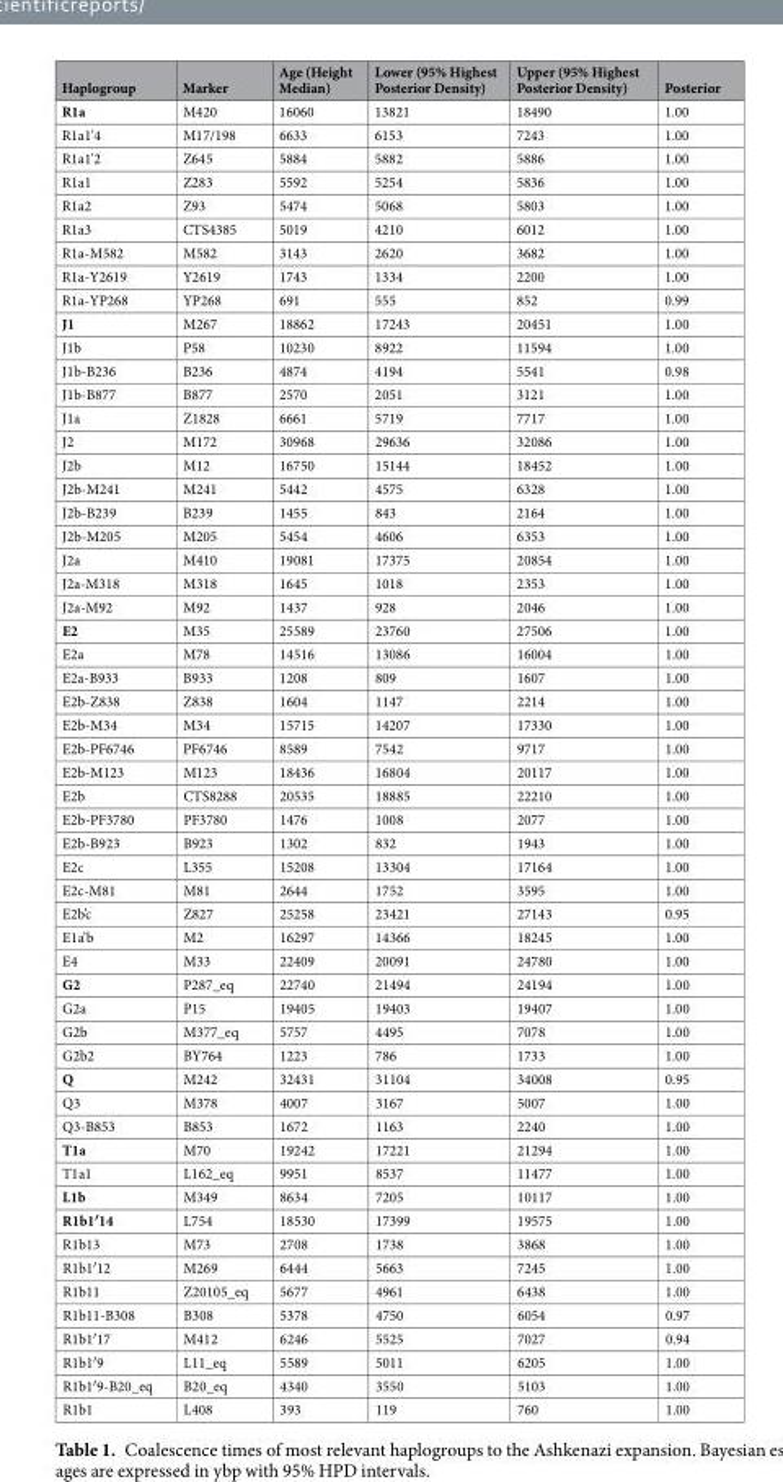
<table><thead><tr><td>Haplogroup</td><td>Marker</td><td>Age (Height Median)</td><td>Lower (95% Highest Posterior Density)</td><td>Upper (95% Highest Posterior Density)</td><td>Posterior</td></tr></thead><tbody><tr><td>R1a</td><td>M420</td><td>16060</td><td>13821</td><td>18490</td><td>1.00</td></tr><tr><td>R1a1&#x27;4</td><td>M17/198</td><td>6633</td><td>6153</td><td>7243</td><td>1.00</td></tr><tr><td>R1a1&#x27;2</td><td>Z645</td><td>5884</td><td>5882</td><td>5886</td><td>1.00</td></tr><tr><td>R1a1</td><td>Z283</td><td>5592</td><td>5254</td><td>5836</td><td>1.00</td></tr><tr><td>R1a2</td><td>Z93</td><td>5474</td><td>5068</td><td>5803</td><td>1.00</td></tr><tr><td>R1a3</td><td>CTS4385</td><td>5019</td><td>4210</td><td>6012</td><td>1.00</td></tr><tr><td>R1a-M582</td><td>M582</td><td>3143</td><td>2620</td><td>3682</td><td>1.00</td></tr><tr><td>R1a-Y2619</td><td>Y2619</td><td>1743</td><td>1334</td><td>2200</td><td>1.00</td></tr><tr><td>R1a-YP268</td><td>YP268</td><td>691</td><td>555</td><td>852</td><td>0.99</td></tr><tr><td>J1</td><td>M267</td><td>18862</td><td>17243</td><td>20451</td><td>1.00</td></tr><tr><td>J1b</td><td>P58</td><td>10230</td><td>8922</td><td>11594</td><td>1.00</td></tr><tr><td>J1b-B236</td><td>B236</td><td>4874</td><td>4194</td><td>5541</td><td>0.98</td></tr><tr><td>J1b-B877</td><td>B877</td><td>2570</td><td>2051</td><td>3121</td><td>1.00</td></tr><tr><td>J1a</td><td>Z1828</td><td>6661</td><td>5719</td><td>7717</td><td>1.00</td></tr><tr><td>J2</td><td>M172</td><td>30968</td><td>29636</td><td>32086</td><td>1.00</td></tr><tr><td>J2b</td><td>M12</td><td>16750</td><td>15144</td><td>18452</td><td>1.00</td></tr><tr><td>J2b-M241</td><td>M241</td><td>5442</td><td>4575</td><td>6328</td><td>1.00</td></tr><tr><td>J2b-B239</td><td>B239</td><td>1455</td><td>843</td><td>2164</td><td>1.00</td></tr><tr><td>J2b-M205</td><td>M205</td><td>5454</td><td>4606</td><td>6353</td><td>1.00</td></tr><tr><td>J2a</td><td>M410</td><td>19081</td><td>17375</td><td>20854</td><td>1.00</td></tr><tr><td>J2a-M318</td><td>M318</td><td>1645</td><td>1018</td><td>2353</td><td>1.00</td></tr><tr><td>J2a-M92</td><td>M92</td><td>1437</td><td>928</td><td>2046</td><td>1.00</td></tr><tr><td>E2</td><td>M35</td><td>25589</td><td>23760</td><td>27506</td><td>1.00</td></tr><tr><td>E2a</td><td>M78</td><td>14516</td><td>13086</td><td>16004</td><td>1.00</td></tr><tr><td>E2a-B933</td><td>B933</td><td>1208</td><td>809</td><td>1607</td><td>1.00</td></tr><tr><td>E2b-Z838</td><td>Z838</td><td>1604</td><td>1147</td><td>2214</td><td>1.00</td></tr><tr><td>E2b-M34</td><td>M34</td><td>15715</td><td>14207</td><td>17330</td><td>1.00</td></tr><tr><td>E2b-PF6746</td><td>PF6746</td><td>8589</td><td>7542</td><td>9717</td><td>1.00</td></tr><tr><td>E2b-M123</td><td>M123</td><td>18436</td><td>16804</td><td>20117</td><td>1.00</td></tr><tr><td>E2b</td><td>CTS8288</td><td>20535</td><td>18885</td><td>22210</td><td>1.00</td></tr><tr><td>E2b-PF3780</td><td>PF3780</td><td>1476</td><td>1008</td><td>2077</td><td>1.00</td></tr><tr><td>E2b-B923</td><td>B923</td><td>1302</td><td>832</td><td>1943</td><td>1.00</td></tr><tr><td>E2c</td><td>L355</td><td>15208</td><td>13304</td><td>17164</td><td>1.00</td></tr><tr><td>E2c-M81</td><td>M81</td><td>2644</td><td>1752</td><td>3595</td><td>1.00</td></tr><tr><td>E2b’c</td><td>Z827</td><td>25258</td><td>23421</td><td>27143</td><td>0.95</td></tr><tr><td>E1a’b</td><td>M2</td><td>16297</td><td>14366</td><td>18245</td><td>1.00</td></tr><tr><td>E4</td><td>M33</td><td>22409</td><td>20091</td><td>24780</td><td>1.00</td></tr><tr><td>G2</td><td>P287_eq</td><td>22740</td><td>21494</td><td>24194</td><td>1.00</td></tr><tr><td>G2a</td><td>P15</td><td>19405</td><td>19403</td><td>19407</td><td>1.00</td></tr><tr><td>G2b</td><td>M377_eq</td><td>5757</td><td>4495</td><td>7078</td><td>1.00</td></tr><tr><td>G2b2</td><td>BY764</td><td>1223</td><td>786</td><td>1733</td><td>1.00</td></tr><tr><td>Q</td><td>M242</td><td>32431</td><td>31104</td><td>34008</td><td>0.95</td></tr><tr><td>Q3</td><td>M378</td><td>4007</td><td>3167</td><td>5007</td><td>1.00</td></tr><tr><td>Q3-B853</td><td>B853</td><td>1672</td><td>1163</td><td>2240</td><td>1.00</td></tr><tr><td>T1a</td><td>M70</td><td>19242</td><td>17221</td><td>21294</td><td>1.00</td></tr><tr><td>T1a1</td><td>L162_eq</td><td>9951</td><td>8537</td><td>11477</td><td>1.00</td></tr><tr><td>L1b</td><td>M349</td><td>8634</td><td>7205</td><td>10117</td><td>1.00</td></tr><tr><td>R1b1′14</td><td>L754</td><td>18530</td><td>17399</td><td>19575</td><td>1.00</td></tr><tr><td>R1b13</td><td>M73</td><td>2708</td><td>1738</td><td>3868</td><td>1.00</td></tr><tr><td>R1b1′12</td><td>M269</td><td>6444</td><td>5663</td><td>7245</td><td>1.00</td></tr><tr><td>R1b11</td><td>Z20105_eq</td><td>5677</td><td>4961</td><td>6438</td><td>1.00</td></tr><tr><td>R1b11-B308</td><td>B308</td><td>5378</td><td>4750</td><td>6054</td><td>0.97</td></tr><tr><td>R1b1′17</td><td>M412</td><td>6246</td><td>5525</td><td>7027</td><td>0.94</td></tr><tr><td>R1b1′9</td><td>L11_eq</td><td>5589</td><td>5011</td><td>6205</td><td>1.00</td></tr><tr><td>R1b1′9-B20_eq</td><td>B20_eq</td><td>4340</td><td>3550</td><td>5103</td><td>1.00</td></tr><tr><td>R1b1</td><td>L408</td><td>393</td><td>119</td><td>760</td><td>1.00</td></tr></tbody></table>